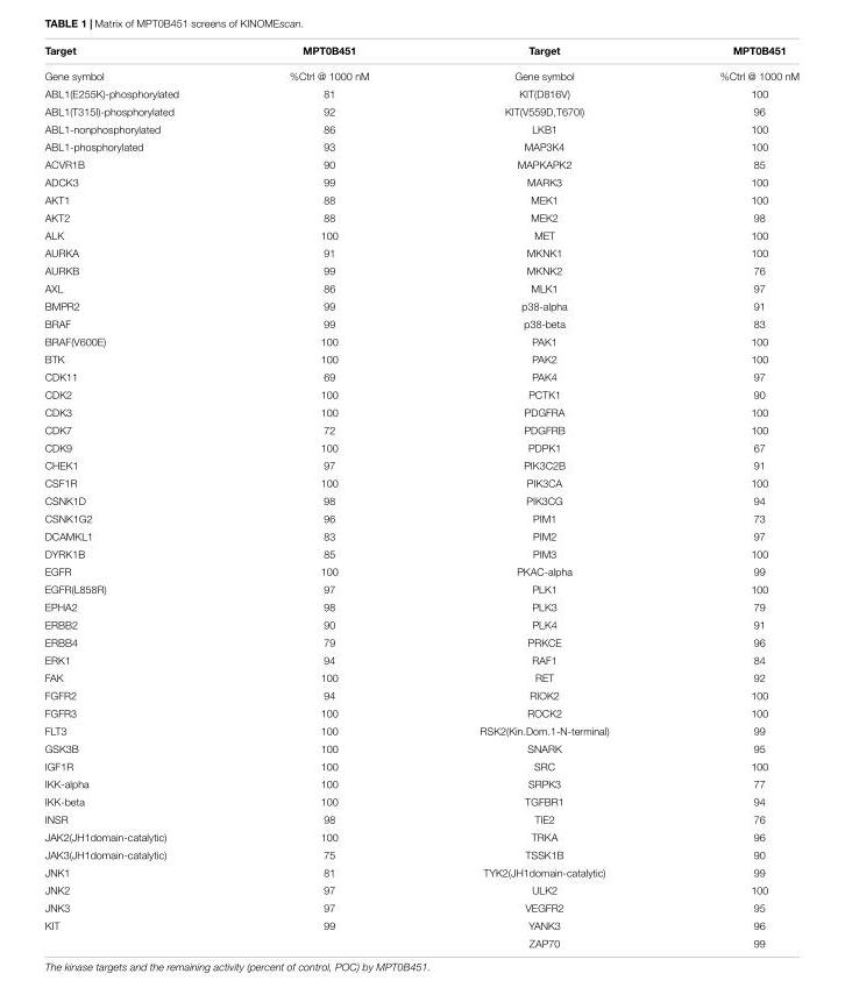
<table><thead><tr><td>Target</td><td>MPT0B451</td><td>Target</td><td>MPT0B451</td></tr></thead><tbody><tr><td>Gene symbol</td><td>%Ctrl @ 1000 nM</td><td>Gene symbol</td><td>%Ctrl @ 1000 nM</td></tr><tr><td>ABL1(E255K)-phosphorylated</td><td>81</td><td>KIT(D816V)</td><td>100</td></tr><tr><td>ABL1(T315I)-phosphorylated</td><td>92</td><td>KIT(V559D,T670I)</td><td>96</td></tr><tr><td>ABL1-nonphosphorylated</td><td>86</td><td>LKB1</td><td>100</td></tr><tr><td>ABL1-phosphorylated</td><td>93</td><td>MAP3K4</td><td>100</td></tr><tr><td>ACVR1B</td><td>90</td><td>MAPKAPK2</td><td>85</td></tr><tr><td>ADCK3</td><td>99</td><td>MARK3</td><td>100</td></tr><tr><td>AKT1</td><td>88</td><td>MEK1</td><td>100</td></tr><tr><td>AKT2</td><td>88</td><td>MEK2</td><td>98</td></tr><tr><td>ALK</td><td>100</td><td>MET</td><td>100</td></tr><tr><td>AURKA</td><td>91</td><td>MKNK1</td><td>100</td></tr><tr><td>AURKB</td><td>99</td><td>MKNK2</td><td>76</td></tr><tr><td>AXL</td><td>86</td><td>MLK1</td><td>97</td></tr><tr><td>BMPR2</td><td>99</td><td>p38-alpha</td><td>91</td></tr><tr><td>BRAF</td><td>99</td><td>p38-beta</td><td>83</td></tr><tr><td>BRAF(V600E)</td><td>100</td><td>PAK1</td><td>100</td></tr><tr><td>BTK</td><td>100</td><td>PAK2</td><td>100</td></tr><tr><td>CDK11</td><td>69</td><td>PAK4</td><td>97</td></tr><tr><td>CDK2</td><td>100</td><td>PCTK1</td><td>90</td></tr><tr><td>CDK3</td><td>100</td><td>PDGFRA</td><td>100</td></tr><tr><td>CDK7</td><td>72</td><td>PDGFRB</td><td>100</td></tr><tr><td>CDK9</td><td>100</td><td>PDPK1</td><td>67</td></tr><tr><td>CHEK1</td><td>97</td><td>PIK3C2B</td><td>91</td></tr><tr><td>CSF1R</td><td>100</td><td>PIK3CA</td><td>100</td></tr><tr><td>CSNK1D</td><td>98</td><td>PIK3CG</td><td>94</td></tr><tr><td>CSNK1G2</td><td>96</td><td>PIM1</td><td>73</td></tr><tr><td>DCAMKL1</td><td>83</td><td>PIM2</td><td>97</td></tr><tr><td>DYRK1B</td><td>85</td><td>PIM3</td><td>100</td></tr><tr><td>EGFR</td><td>100</td><td>PKAC-alpha</td><td>99</td></tr><tr><td>EGFR(L858R)</td><td>97</td><td>PLK1</td><td>100</td></tr><tr><td>EPHA2</td><td>98</td><td>PLK3</td><td>79</td></tr><tr><td>ERBB2</td><td>90</td><td>PLK4</td><td>91</td></tr><tr><td>ERBB4</td><td>79</td><td>PRKCE</td><td>96</td></tr><tr><td>ERK1</td><td>94</td><td>RAF1</td><td>84</td></tr><tr><td>FAK</td><td>100</td><td>RET</td><td>92</td></tr><tr><td>FGFR2</td><td>94</td><td>RIOK2</td><td>100</td></tr><tr><td>FGFR3</td><td>100</td><td>ROCK2</td><td>100</td></tr><tr><td>FLT3</td><td>100</td><td>RSK2(Kin.Dom.1-N-terminal)</td><td>99</td></tr><tr><td>GSK3B</td><td>100</td><td>SNARK</td><td>95</td></tr><tr><td>IGF1R</td><td>100</td><td>SRC</td><td>100</td></tr><tr><td>IKK-alpha</td><td>100</td><td>SRPK3</td><td>77</td></tr><tr><td>IKK-beta</td><td>100</td><td>TGFBR1</td><td>94</td></tr><tr><td>INSR</td><td>98</td><td>TIE2</td><td>76</td></tr><tr><td>JAK2(JH1domain-catalytic)</td><td>100</td><td>TRKA</td><td>96</td></tr><tr><td>JAK3(JH1domain-catalytic)</td><td>75</td><td>TSSK1B</td><td>90</td></tr><tr><td>JNK1</td><td>81</td><td>TYK2(JH1domain-catalytic)</td><td>99</td></tr><tr><td>JNK2</td><td>97</td><td>ULK2</td><td>100</td></tr><tr><td>JNK3</td><td>97</td><td>VEGFR2</td><td>95</td></tr><tr><td rowspan="2">KIT</td><td>99</td><td>YANK3</td><td>96</td></tr><tr><td></td><td>ZAP70</td><td>99</td></tr></tbody></table>